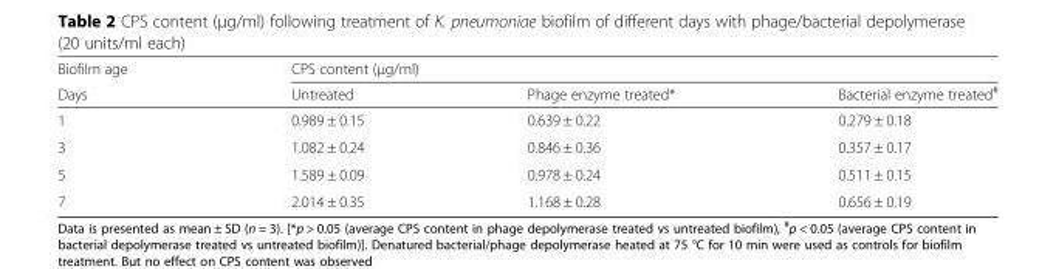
<table><thead><tr><td rowspan="2">Biofilm age Days</td><td colspan="3">CPS content (μg/ml)</td></tr><tr><td>Untreated</td><td>Phage enzyme treated*</td><td>Bacterial enzyme treated<sup>#</sup></td></tr></thead><tbody><tr><td>1</td><td>0.989 ± 0.15</td><td>0.639 ± 0.22</td><td>0.279 ± 0.18</td></tr><tr><td>3</td><td>1.082 ± 0.24</td><td>0.846 ± 0.36</td><td>0.357 ± 0.17</td></tr><tr><td>5</td><td>1.589 ± 0.09</td><td>0.978 ± 0.24</td><td>0.511 ± 0.15</td></tr><tr><td>7</td><td>2.014 ± 0.35</td><td>1.168 ± 0.28</td><td>0.656 ± 0.19</td></tr></tbody></table>